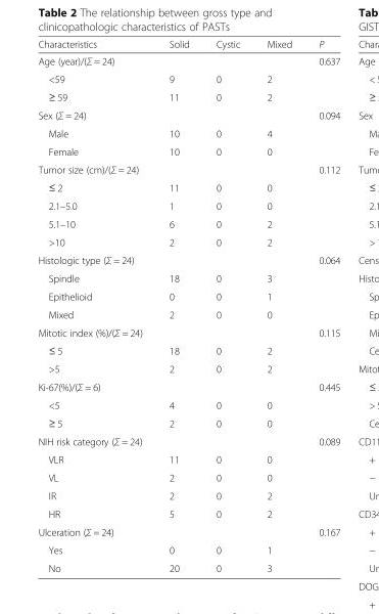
<table><thead><tr><td>Characteristics</td><td>Solid</td><td>Cystic</td><td>Mixed</td><td>P</td></tr></thead><tbody><tr><td>Age (year)/(Σ = 24)</td><td></td><td></td><td></td><td>0.637</td></tr><tr><td>&lt;59</td><td>9</td><td>0</td><td>2</td><td></td></tr><tr><td>≥ 59</td><td>11</td><td>0</td><td>2</td><td></td></tr><tr><td>Sex (Σ = 24)</td><td></td><td></td><td></td><td>0.094</td></tr><tr><td>Male</td><td>10</td><td>0</td><td>4</td><td rowspan="2"></td></tr><tr><td>Female</td><td>10</td><td>0</td><td>0</td></tr><tr><td>Tumor size (cm)/(Σ = 24)</td><td></td><td></td><td></td><td>0.112</td></tr><tr><td>≤ 2</td><td>11</td><td>0</td><td>0</td><td rowspan="4"></td></tr><tr><td>2.1–5.0</td><td>1</td><td>0</td><td>0</td></tr><tr><td>5.1–10</td><td>6</td><td>0</td><td>2</td></tr><tr><td>&gt;10</td><td>2</td><td>0</td><td>2</td></tr><tr><td>Histologic type (Σ = 24)</td><td></td><td></td><td></td><td>0.064</td></tr><tr><td>Spindle</td><td>18</td><td>0</td><td>3</td><td rowspan="3"></td></tr><tr><td>Epithelioid</td><td>0</td><td>0</td><td>1</td></tr><tr><td>Mixed</td><td>2</td><td>0</td><td>0</td></tr><tr><td>Mitotic index (%)/(Σ = 24)</td><td></td><td></td><td></td><td>0.115</td></tr><tr><td>≤ 5</td><td>18</td><td>0</td><td>2</td><td rowspan="2"></td></tr><tr><td>&gt;5</td><td>2</td><td>0</td><td>2</td></tr><tr><td>Ki-67(%)/(Σ = 6)</td><td></td><td></td><td></td><td>0.445</td></tr><tr><td>&lt;5</td><td>4</td><td>0</td><td>0</td><td></td></tr><tr><td>≥ 5</td><td>2</td><td>0</td><td>0</td><td></td></tr><tr><td>NIH risk category (Σ = 24)</td><td></td><td></td><td></td><td>0.089</td></tr><tr><td>VLR</td><td>11</td><td>0</td><td>0</td><td rowspan="4"></td></tr><tr><td>VL</td><td>2</td><td>0</td><td>0</td></tr><tr><td>IR</td><td>2</td><td>0</td><td>2</td></tr><tr><td>HR</td><td>5</td><td>0</td><td>2</td></tr><tr><td>Ulceration (Σ = 24)</td><td></td><td></td><td></td><td>0.167</td></tr><tr><td>Yes</td><td>0</td><td>0</td><td>1</td><td rowspan="2"></td></tr><tr><td>No</td><td>20</td><td>0</td><td>3</td></tr></tbody></table>